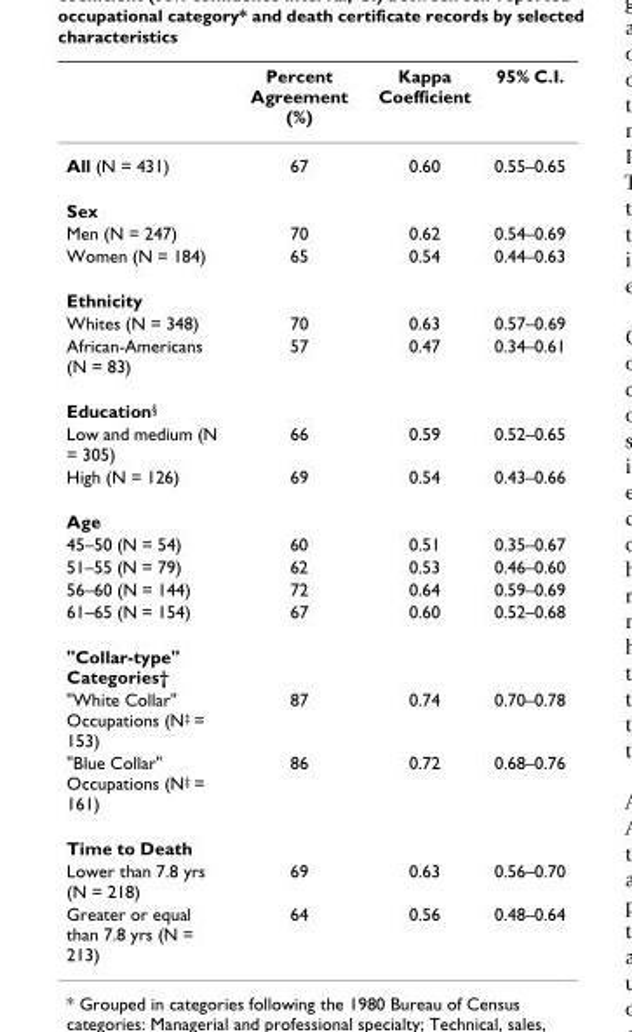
<table><thead><tr><td></td><td>Percent Agreement (%)</td><td>Kappa Coefficient</td><td>95% C.I.</td></tr></thead><tbody><tr><td>All (N = 431)</td><td>67</td><td>0.60</td><td>0.55–0.65</td></tr><tr><td colspan="4">Sex</td></tr><tr><td>Men (N = 247)</td><td>70</td><td>0.62</td><td>0.54–0.69</td></tr><tr><td>Women (N = 184)</td><td>65</td><td>0.54</td><td>0.44–0.63</td></tr><tr><td colspan="4">Ethnicity</td></tr><tr><td>Whites (N = 348)</td><td>70</td><td>0.63</td><td>0.57–0.69</td></tr><tr><td>African-Americans (N = 83)</td><td>57</td><td>0.47</td><td>0.34–0.61</td></tr><tr><td colspan="4">Education<sup>§</sup></td></tr><tr><td>Low and medium (N = 305)</td><td>66</td><td>0.59</td><td>0.52–0.65</td></tr><tr><td>High (N = 126)</td><td>69</td><td>0.54</td><td>0.43–0.66</td></tr><tr><td colspan="4">Age</td></tr><tr><td>45–50 (N = 54)</td><td>60</td><td>0.51</td><td>0.35–0.67</td></tr><tr><td>51–55 (N = 79)</td><td>62</td><td>0.53</td><td>0.46–0.60</td></tr><tr><td>56–60 (N = 144)</td><td>72</td><td>0.64</td><td>0.59–0.69</td></tr><tr><td>61–65 (N = 154)</td><td>67</td><td>0.60</td><td>0.52–0.68</td></tr><tr><td colspan="4">&quot;Collar-type&quot; Categories†</td></tr><tr><td>&quot;White Collar&quot; Occupations (N<sup>‡</sup> = 153)</td><td>87</td><td>0.74</td><td>0.70–0.78</td></tr><tr><td>&quot;Blue Collar&quot; Occupations (N<sup>‡</sup> = 161)</td><td>86</td><td>0.72</td><td>0.68–0.76</td></tr><tr><td colspan="4">Time to Death</td></tr><tr><td>Lower than 7.8 yrs (N = 218)</td><td>69</td><td>0.63</td><td>0.56–0.70</td></tr><tr><td>Greater or equal than 7.8 yrs (N = 213)</td><td>64</td><td>0.56</td><td>0.48–0.64</td></tr></tbody></table>